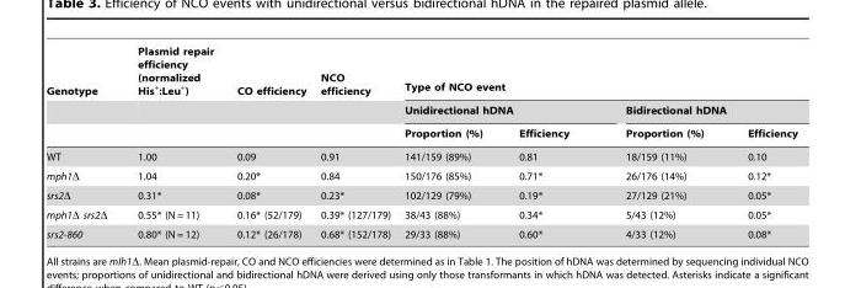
<table><thead><tr><td rowspan="3">Genotype</td><td rowspan="3">Plasmid repair efficiency (normalized His+:Leu+)</td><td rowspan="3">CO efficiency</td><td rowspan="3">NCO efficiency</td><td colspan="4">Type of NCO event</td></tr><tr><td colspan="2">Unidirectional hDNA</td><td colspan="2">Bidirectional hDNA</td></tr><tr><td>Proportion (%)</td><td>Efficiency</td><td>Proportion (%)</td><td>Efficiency</td></tr></thead><tbody><tr><td>WT</td><td>1.00</td><td>0.09</td><td>0.91</td><td>141/159 (89%)</td><td>0.81</td><td>18/159 (11%)</td><td>0.10</td></tr><tr><td>mph1Δ</td><td>1.04</td><td>0.20*</td><td>0.84</td><td>150/176 (85%)</td><td>0.71*</td><td>26/176 (14%)</td><td>0.12*</td></tr><tr><td>srs2Δ</td><td>0.31*</td><td>0.08*</td><td>0.23*</td><td>102/129 (79%)</td><td>0.19*</td><td>27/129 (21%)</td><td>0.05*</td></tr><tr><td>mph1Δ srs2Δ</td><td>0.55* (N = 11)</td><td>0.16* (52/179)</td><td>0.39* (127/179)</td><td>38/43 (88%)</td><td>0.34*</td><td>5/43 (12%)</td><td>0.05*</td></tr><tr><td>srs2-860</td><td>0.80* (N = 12)</td><td>0.12* (26/178)</td><td>0.68* (152/178)</td><td>29/33 (88%)</td><td>0.60*</td><td>4/33 (12%)</td><td>0.08*</td></tr></tbody></table>